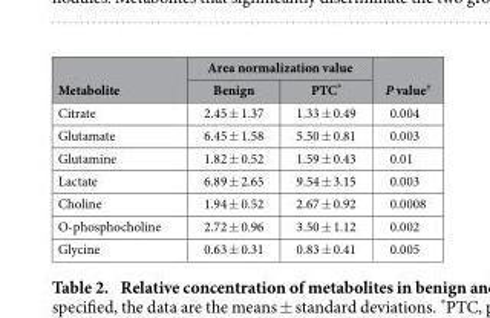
<table><thead><tr><td rowspan="2">Metabolite</td><td colspan="2">Area normalization value</td><td rowspan="2">P value†</td></tr><tr><td>Benign</td><td>PTC*</td></tr></thead><tbody><tr><td>Citrate</td><td>2.45 ± 1.37</td><td>1.33 ± 0.49</td><td>0.004</td></tr><tr><td>Glutamate</td><td>6.45 ± 1.58</td><td>5.50 ± 0.81</td><td>0.003</td></tr><tr><td>Glutamine</td><td>1.82 ± 0.52</td><td>1.59 ± 0.43</td><td>0.01</td></tr><tr><td>Lactate</td><td>6.89 ± 2.65</td><td>9.54 ± 3.15</td><td>0.003</td></tr><tr><td>Choline</td><td>1.94 ± 0.52</td><td>2.67 ± 0.92</td><td>0.0008</td></tr><tr><td>O-phosphocholine</td><td>2.72 ± 0.96</td><td>3.50 ± 1.12</td><td>0.002</td></tr><tr><td>Glycine</td><td>0.63 ± 0.31</td><td>0.83 ± 0.41</td><td>0.005</td></tr></tbody></table>